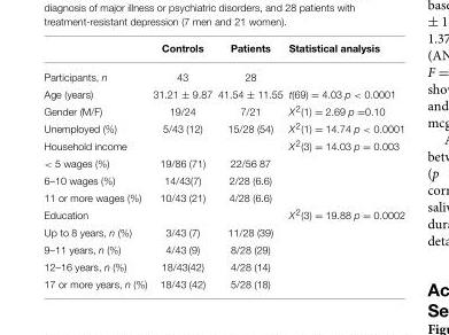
<table><thead><tr><td></td><td>Controls</td><td>Patients</td><td>Statistical analysis</td></tr></thead><tbody><tr><td>Participants, n</td><td>43</td><td>28</td><td></td></tr><tr><td>Age (years)</td><td>31.21 ± 9.87</td><td>41.54 ± 11.55</td><td>t(69) = 4.03 p &lt; 0.0001</td></tr><tr><td>Gender (M/F)</td><td>19/24</td><td>7/21</td><td>X<sup>2</sup>(1) = 2.69 p =0.10</td></tr><tr><td>Unemployed (%)</td><td>5/43 (12)</td><td>15/28 (54)</td><td>X<sup>2</sup>(1) = 14.74 p &lt; 0.0001</td></tr><tr><td>Household income</td><td></td><td></td><td>X<sup>2</sup>(3) = 14.03 p = 0.003</td></tr><tr><td>&lt; 5 wages (%)</td><td>19/86 (71)</td><td>22/56 87</td><td></td></tr><tr><td>6–10 wages (%)</td><td>14/43(7)</td><td>2/28 (6.6)</td><td></td></tr><tr><td>11 or more wages (%)</td><td>10/43 (21)</td><td>4/28 (6.6)</td><td></td></tr><tr><td>Education</td><td></td><td></td><td>X<sup>2</sup>(3) = 19.88 p = 0.0002</td></tr><tr><td>Up to 8 years, n (%)</td><td>3/43 (7)</td><td>11/28 (39)</td><td></td></tr><tr><td>9–11 years, n (%)</td><td>4/43 (9)</td><td>8/28 (29)</td><td></td></tr><tr><td>12–16 years, n (%)</td><td>18/43(42)</td><td>4/28 (14)</td><td></td></tr><tr><td>17 or more years, n (%)</td><td>18/43 (42)</td><td>5/28 (18)</td><td></td></tr></tbody></table>